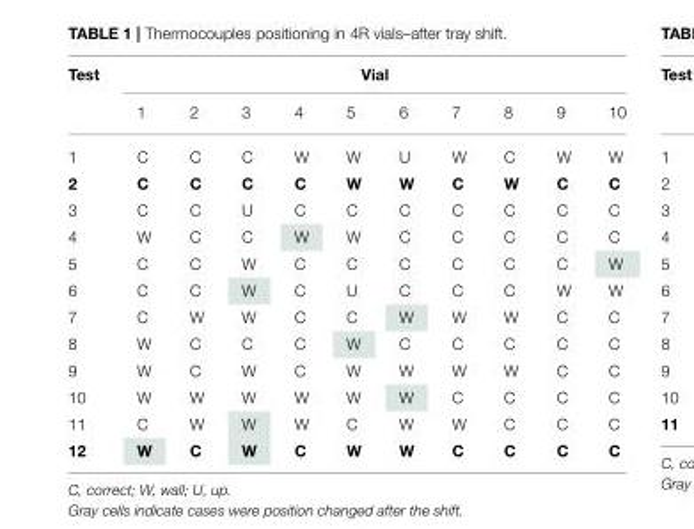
<table><thead><tr><td rowspan="2">Test</td><td colspan="10">Vial</td></tr><tr><td>1</td><td>2</td><td>3</td><td>4</td><td>5</td><td>6</td><td>7</td><td>8</td><td>9</td><td>10</td></tr></thead><tbody><tr><td>1</td><td>C</td><td>C</td><td>C</td><td>W</td><td>W</td><td>U</td><td>W</td><td>C</td><td>W</td><td>W</td></tr><tr><td>2</td><td>C</td><td>C</td><td>C</td><td>C</td><td>W</td><td>W</td><td>C</td><td>W</td><td>C</td><td>C</td></tr><tr><td>3</td><td>C</td><td>C</td><td>U</td><td>C</td><td>C</td><td>C</td><td>C</td><td>C</td><td>C</td><td>C</td></tr><tr><td>4</td><td>W</td><td>C</td><td>C</td><td>W</td><td>W</td><td>C</td><td>C</td><td>C</td><td>C</td><td>C</td></tr><tr><td>5</td><td>C</td><td>C</td><td>W</td><td>C</td><td>C</td><td>C</td><td>C</td><td>C</td><td>C</td><td>W</td></tr><tr><td>6</td><td>C</td><td>C</td><td>W</td><td>C</td><td>U</td><td>C</td><td>C</td><td>C</td><td>W</td><td>W</td></tr><tr><td>7</td><td>C</td><td>W</td><td>W</td><td>C</td><td>C</td><td>W</td><td>W</td><td>W</td><td>C</td><td>C</td></tr><tr><td>8</td><td>W</td><td>C</td><td>C</td><td>C</td><td>W</td><td>C</td><td>C</td><td>C</td><td>C</td><td>C</td></tr><tr><td>9</td><td>W</td><td>C</td><td>W</td><td>C</td><td>W</td><td>W</td><td>W</td><td>W</td><td>C</td><td>C</td></tr><tr><td>10</td><td>W</td><td>W</td><td>W</td><td>W</td><td>W</td><td>W</td><td>C</td><td>C</td><td>C</td><td>C</td></tr><tr><td>11</td><td>C</td><td>W</td><td>W</td><td>W</td><td>C</td><td>W</td><td>W</td><td>C</td><td>C</td><td>C</td></tr><tr><td>12</td><td>W</td><td>C</td><td>W</td><td>C</td><td>W</td><td>W</td><td>C</td><td>C</td><td>C</td><td>C</td></tr></tbody></table>